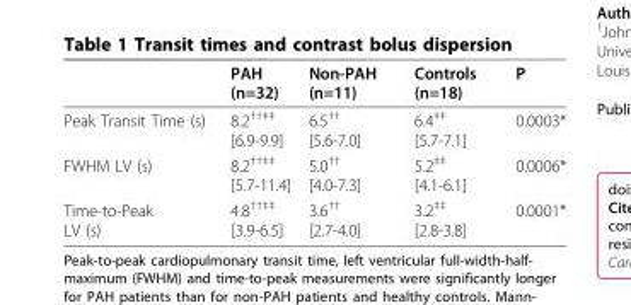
<table><thead><tr><td></td><td>PAH (n=32)</td><td>Non-PAH (n=11)</td><td>Controls (n=18)</td><td>P</td></tr></thead><tbody><tr><td>Peak Transit Time (s)</td><td>8.2<sup>††‡‡</sup> [6.9-9.9]</td><td>6.5<sup>††</sup> [5.6-7.0]</td><td>6.4<sup>‡‡</sup> [5.7-7.1]</td><td>0.0003*</td></tr><tr><td>FWHM LV (s)</td><td>8.2<sup>††‡‡</sup> [5.7-11.4]</td><td>5.0<sup>††</sup> [4.0-7.3]</td><td>5.2<sup>‡‡</sup> [4.1-6.1]</td><td>0.0006*</td></tr><tr><td>Time-to-Peak LV (s)</td><td>4.8<sup>††‡‡</sup> [3.9-6.5]</td><td>3.6<sup>††</sup> [2.7-4.0]</td><td>3.2<sup>‡‡</sup> [2.8-3.8]</td><td>0.0001*</td></tr></tbody></table>